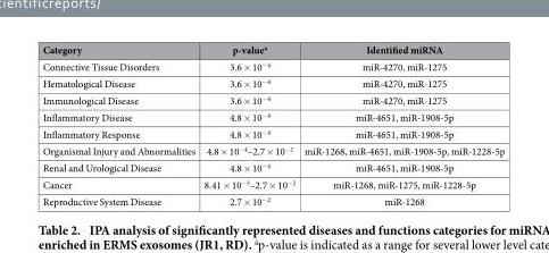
<table><thead><tr><td>Category</td><td>p-value<sup>a</sup></td><td>Identified miRNA</td></tr></thead><tbody><tr><td>Connective Tissue Disorders</td><td>3.6 × 10<sup>−4</sup></td><td>miR-4270, miR-1275</td></tr><tr><td>Hematological Disease</td><td>3.6 × 10<sup>−4</sup></td><td>miR-4270, miR-1275</td></tr><tr><td>Immunological Disease</td><td>3.6 × 10<sup>−4</sup></td><td>miR-4270, miR-1275</td></tr><tr><td>Inflammatory Disease</td><td>4.8 × 10<sup>−4</sup></td><td>miR-4651, miR-1908-5p</td></tr><tr><td>Inflammatory Response</td><td>4.8 × 10<sup>−4</sup></td><td>miR-4651, miR-1908-5p</td></tr><tr><td>Organismal Injury and Abnormalities</td><td>4.8 × 10<sup>−4</sup>–2.7 × 10<sup>−2</sup></td><td>miR-1268, miR-4651, miR-1908-5p, miR-1228-5p</td></tr><tr><td>Renal and Urological Disease</td><td>4.8 × 10<sup>−4</sup></td><td>miR-4651, miR-1908-5p</td></tr><tr><td>Cancer</td><td>8.41 × 10<sup>−3</sup>–2.7 × 10<sup>−2</sup></td><td>miR-1268, miR-1275, miR-1228-5p</td></tr><tr><td>Reproductive System Disease</td><td>2.7 × 10<sup>−2</sup></td><td>miR-1268</td></tr></tbody></table>